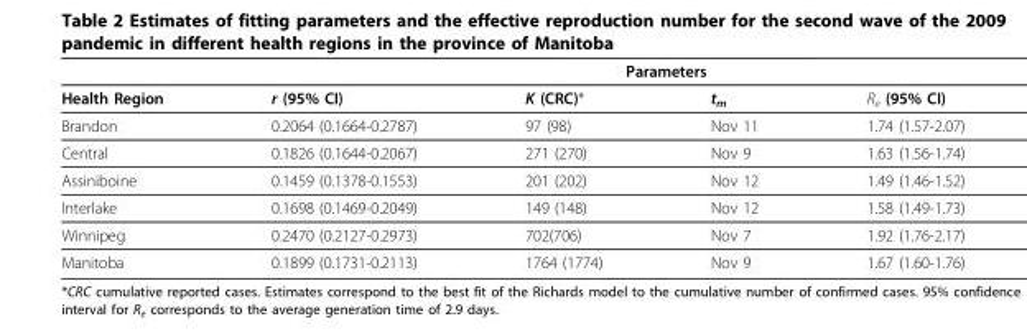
<table><thead><tr><td rowspan="2">Health Region</td><td colspan="4">Parameters</td></tr><tr><td>r (95% CI)</td><td>K (CRC)*</td><td>t<sub>m</sub></td><td>R<sub>e</sub> (95% CI)</td></tr></thead><tbody><tr><td>Brandon</td><td>0.2064 (0.1664-0.2787)</td><td>97 (98)</td><td>Nov 11</td><td>1.74 (1.57-2.07)</td></tr><tr><td>Central</td><td>0.1826 (0.1644-0.2067)</td><td>271 (270)</td><td>Nov 9</td><td>1.63 (1.56-1.74)</td></tr><tr><td>Assiniboine</td><td>0.1459 (0.1378-0.1553)</td><td>201 (202)</td><td>Nov 12</td><td>1.49 (1.46-1.52)</td></tr><tr><td>Interlake</td><td>0.1698 (0.1469-0.2049)</td><td>149 (148)</td><td>Nov 12</td><td>1.58 (1.49-1.73)</td></tr><tr><td>Winnipeg</td><td>0.2470 (0.2127-0.2973)</td><td>702(706)</td><td>Nov 7</td><td>1.92 (1.76-2.17)</td></tr><tr><td>Manitoba</td><td>0.1899 (0.1731-0.2113)</td><td>1764 (1774)</td><td>Nov 9</td><td>1.67 (1.60-1.76)</td></tr></tbody></table>